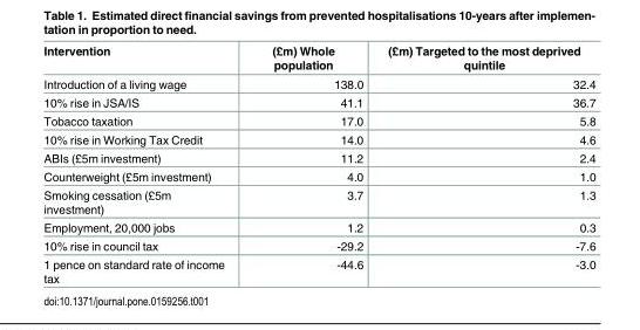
<table><thead><tr><td>Intervention</td><td>(£m) Whole population</td><td>(£m) Targeted to the most deprived quintile</td></tr></thead><tbody><tr><td>Introduction of a living wage</td><td>138.0</td><td>32.4</td></tr><tr><td>10% rise in JSA/IS</td><td>41.1</td><td>36.7</td></tr><tr><td>Tobacco taxation</td><td>17.0</td><td>5.8</td></tr><tr><td>10% rise in Working Tax Credit</td><td>14.0</td><td>4.6</td></tr><tr><td>ABIs (£5m investment)</td><td>11.2</td><td>2.4</td></tr><tr><td>Counterweight (£5m investment)</td><td>4.0</td><td>1.0</td></tr><tr><td>Smoking cessation (£5m investment)</td><td>3.7</td><td>1.3</td></tr><tr><td>Employment, 20,000 jobs</td><td>1.2</td><td>0.3</td></tr><tr><td>10% rise in council tax</td><td>-29.2</td><td>-7.6</td></tr><tr><td>1 pence on standard rate of income tax</td><td>-44.6</td><td>-3.0</td></tr></tbody></table>